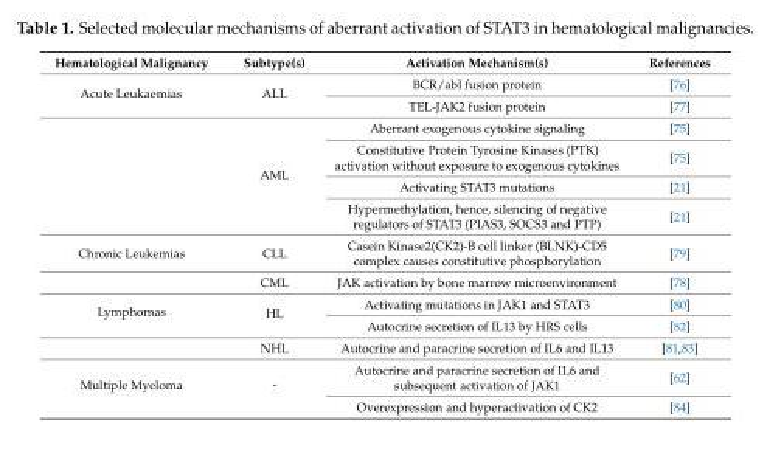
<table><thead><tr><td>Hematological Malignancy</td><td>Subtype(s)</td><td>Activation Mechanism(s)</td><td>References</td></tr></thead><tbody><tr><td rowspan="6">Acute Leukaemias</td><td rowspan="2">ALL</td><td>BCR/abl fusion protein</td><td>[76]</td></tr><tr><td>TEL-JAK2 fusion protein</td><td>[77]</td></tr><tr><td rowspan="4">AML</td><td>Aberrant exogenous cytokine signaling</td><td>[75]</td></tr><tr><td>Constitutive Protein Tyrosine Kinases (PTK) activation without exposure to exogenous cytokines</td><td>[75]</td></tr><tr><td>Activating STAT3 mutations</td><td>[21]</td></tr><tr><td>Hypermethylation, hence, silencing of negative regulators of STAT3 (PIAS3, SOCS3 and PTP)</td><td>[21]</td></tr><tr><td rowspan="2">Chronic Leukemias</td><td>CLL</td><td>Casein Kinase2(CK2)-B cell linker (BLNK)-CD5 complex causes constitutive phosphorylation</td><td>[79]</td></tr><tr><td>CML</td><td>JAK activation by bone marrow microenvironment</td><td>[78]</td></tr><tr><td rowspan="3">Lymphomas</td><td rowspan="2">HL</td><td>Activating mutations in JAK1 and STAT3</td><td>[80]</td></tr><tr><td>Autocrine secretion of IL13 by HRS cells</td><td>[82]</td></tr><tr><td>NHL</td><td>Autocrine and paracrine secretion of IL6 and IL13</td><td>[81,83]</td></tr><tr><td rowspan="2">Multiple Myeloma</td><td rowspan="2">-</td><td>Autocrine and paracrine secretion of IL6 and subsequent activation of JAK1</td><td>[62]</td></tr><tr><td>Overexpression and hyperactivation of CK2</td><td>[84]</td></tr></tbody></table>